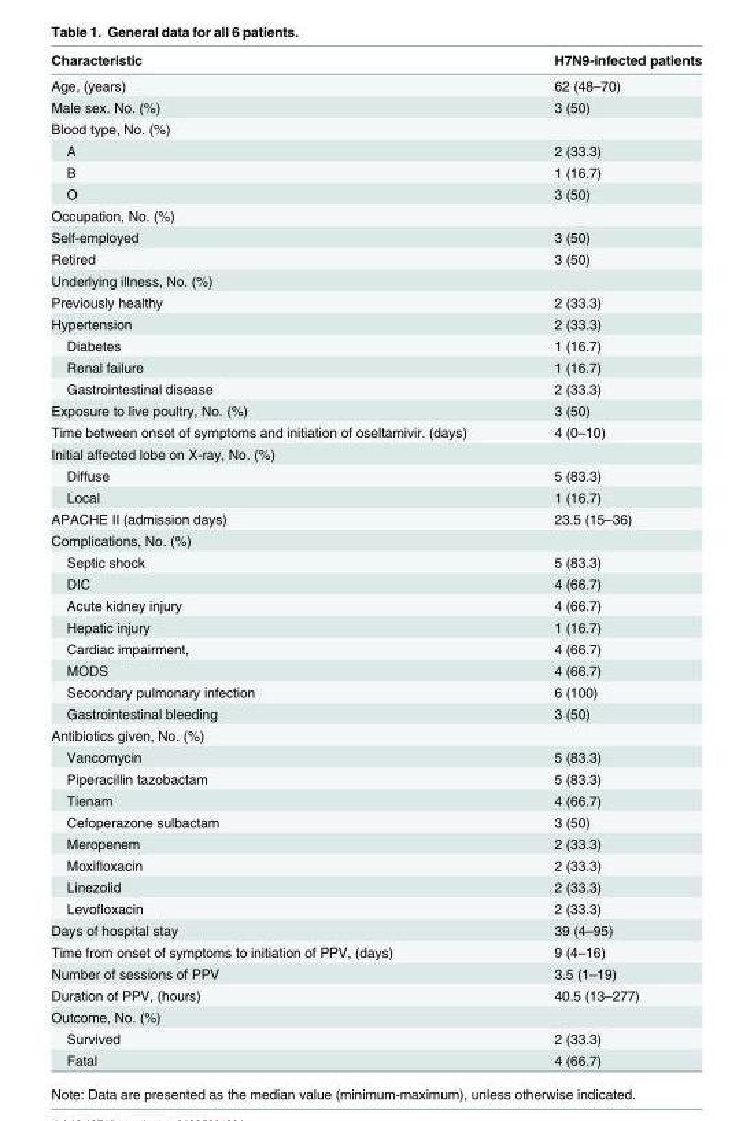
<table><thead><tr><td>Characteristic</td><td>H7N9-infected patients</td></tr></thead><tbody><tr><td>Age, (years)</td><td>62 (48–70)</td></tr><tr><td>Male sex. No. (%)</td><td>3 (50)</td></tr><tr><td colspan="2">Blood type, No. (%)</td></tr><tr><td>A</td><td>2 (33.3)</td></tr><tr><td>B</td><td>1 (16.7)</td></tr><tr><td>O</td><td>3 (50)</td></tr><tr><td colspan="2">Occupation, No. (%)</td></tr><tr><td>Self-employed</td><td>3 (50)</td></tr><tr><td>Retired</td><td>3 (50)</td></tr><tr><td colspan="2">Underlying illness, No. (%)</td></tr><tr><td>Previously healthy</td><td>2 (33.3)</td></tr><tr><td>Hypertension</td><td>2 (33.3)</td></tr><tr><td>Diabetes</td><td>1 (16.7)</td></tr><tr><td>Renal failure</td><td>1 (16.7)</td></tr><tr><td>Gastrointestinal disease</td><td>2 (33.3)</td></tr><tr><td>Exposure to live poultry, No. (%)</td><td>3 (50)</td></tr><tr><td>Time between onset of symptoms and initiation of oseltamivir. (days)</td><td>4 (0–10)</td></tr><tr><td colspan="2">Initial affected lobe on X-ray, No. (%)</td></tr><tr><td>Diffuse</td><td>5 (83.3)</td></tr><tr><td>Local</td><td>1 (16.7)</td></tr><tr><td>APACHE II (admission days)</td><td>23.5 (15–36)</td></tr><tr><td colspan="2">Complications, No. (%)</td></tr><tr><td>Septic shock</td><td>5 (83.3)</td></tr><tr><td>DIC</td><td>4 (66.7)</td></tr><tr><td>Acute kidney injury</td><td>4 (66.7)</td></tr><tr><td>Hepatic injury</td><td>1 (16.7)</td></tr><tr><td>Cardiac impairment,</td><td>4 (66.7)</td></tr><tr><td>MODS</td><td>4 (66.7)</td></tr><tr><td>Secondary pulmonary infection</td><td>6 (100)</td></tr><tr><td>Gastrointestinal bleeding</td><td>3 (50)</td></tr><tr><td colspan="2">Antibiotics given, No. (%)</td></tr><tr><td>Vancomycin</td><td>5 (83.3)</td></tr><tr><td>Piperacillin tazobactam</td><td>5 (83.3)</td></tr><tr><td>Tienam</td><td>4 (66.7)</td></tr><tr><td>Cefoperazone sulbactam</td><td>3 (50)</td></tr><tr><td>Meropenem</td><td>2 (33.3)</td></tr><tr><td>Moxifloxacin</td><td>2 (33.3)</td></tr><tr><td>Linezolid</td><td>2 (33.3)</td></tr><tr><td>Levofloxacin</td><td>2 (33.3)</td></tr><tr><td>Days of hospital stay</td><td>39 (4–95)</td></tr><tr><td>Time from onset of symptoms to initiation of PPV, (days)</td><td>9 (4–16)</td></tr><tr><td>Number of sessions of PPV</td><td>3.5 (1–19)</td></tr><tr><td>Duration of PPV, (hours)</td><td>40.5 (13–277)</td></tr><tr><td colspan="2">Outcome, No. (%)</td></tr><tr><td>Survived</td><td>2 (33.3)</td></tr><tr><td>Fatal</td><td>4 (66.7)</td></tr></tbody></table>